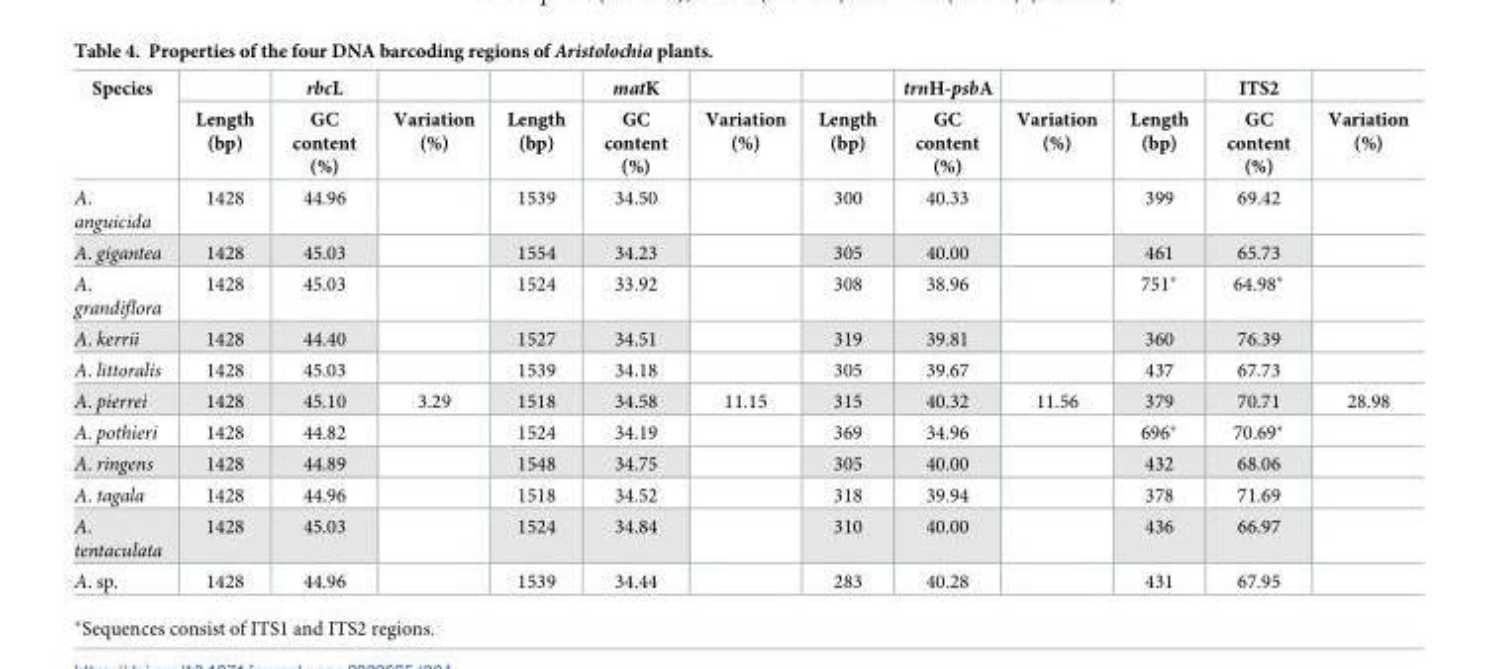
<table><thead><tr><td rowspan="2">Species</td><td rowspan="2">Length (bp)</td><td rowspan="2">rbcL GC content (%)</td><td rowspan="2">Variation (%)</td><td rowspan="2">Length (bp)</td><td rowspan="2">matK GC content (%)</td><td rowspan="2">Variation (%)</td><td rowspan="2">Length (bp)</td><td rowspan="2">trnH-psbA GC content (%)</td><td rowspan="2">Variation (%)</td><td rowspan="2">Length (bp)</td><td rowspan="2">ITS2 GC content (%)</td><td rowspan="2">Variation (%)</td></tr><tr></tr></thead><tbody><tr><td>A. anguicida</td><td>1428</td><td>44.96</td><td></td><td>1539</td><td>34.50</td><td></td><td>300</td><td>40.33</td><td></td><td>399</td><td>69.42</td><td></td></tr><tr><td>A. gigantea</td><td>1428</td><td>45.03</td><td></td><td>1554</td><td>34.23</td><td></td><td>305</td><td>40.00</td><td></td><td>461</td><td>65.73</td><td></td></tr><tr><td>A. grandiflora</td><td>1428</td><td>45.03</td><td></td><td>1524</td><td>33.92</td><td></td><td>308</td><td>38.96</td><td></td><td>751*</td><td>64.98*</td><td></td></tr><tr><td>A. kerrii</td><td>1428</td><td>44.40</td><td></td><td>1527</td><td>34.51</td><td></td><td>319</td><td>39.81</td><td></td><td>360</td><td>76.39</td><td></td></tr><tr><td>A. littoralis</td><td>1428</td><td>45.03</td><td></td><td>1539</td><td>34.18</td><td></td><td>305</td><td>39.67</td><td></td><td>437</td><td>67.73</td><td></td></tr><tr><td>A. pierrei</td><td>1428</td><td>45.10</td><td>3.29</td><td>1518</td><td>34.58</td><td>11.15</td><td>315</td><td>40.32</td><td>11.56</td><td>379</td><td>70.71</td><td>28.98</td></tr><tr><td>A. pothieri</td><td>1428</td><td>44.82</td><td></td><td>1524</td><td>34.19</td><td></td><td>369</td><td>34.96</td><td></td><td>696*</td><td>70.69*</td><td></td></tr><tr><td>A. ringens</td><td>1428</td><td>44.89</td><td></td><td>1548</td><td>34.75</td><td></td><td>305</td><td>40.00</td><td></td><td>432</td><td>68.06</td><td></td></tr><tr><td>A. tagala</td><td>1428</td><td>44.96</td><td></td><td>1518</td><td>34.52</td><td></td><td>318</td><td>39.94</td><td></td><td>378</td><td>71.69</td><td></td></tr><tr><td>A. tentaculata</td><td>1428</td><td>45.03</td><td></td><td>1524</td><td>34.84</td><td></td><td>310</td><td>40.00</td><td></td><td>436</td><td>66.97</td><td></td></tr><tr><td>A. sp.</td><td>1428</td><td>44.96</td><td></td><td>1539</td><td>34.44</td><td></td><td>283</td><td>40.28</td><td></td><td>431</td><td>67.95</td><td></td></tr></tbody></table>